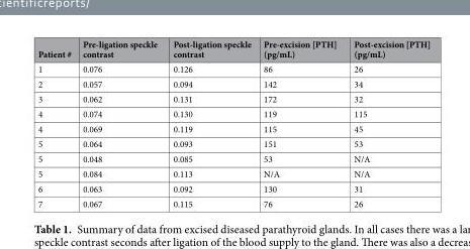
<table><thead><tr><td>Patient #</td><td>Pre-ligation speckle contrast</td><td>Post-ligation speckle contrast</td><td>Pre-excision [PTH] (pg/mL)</td><td>Post-excision [PTH] (pg/mL)</td></tr></thead><tbody><tr><td>1</td><td>0.076</td><td>0.126</td><td>86</td><td>26</td></tr><tr><td>2</td><td>0.057</td><td>0.094</td><td>142</td><td>34</td></tr><tr><td>3</td><td>0.062</td><td>0.131</td><td>172</td><td>32</td></tr><tr><td>4</td><td>0.074</td><td>0.130</td><td>119</td><td>115</td></tr><tr><td>4</td><td>0.069</td><td>0.119</td><td>115</td><td>45</td></tr><tr><td>5</td><td>0.064</td><td>0.093</td><td>151</td><td>53</td></tr><tr><td>5</td><td>0.048</td><td>0.085</td><td>53</td><td>N/A</td></tr><tr><td>5</td><td>0.084</td><td>0.113</td><td>N/A</td><td>N/A</td></tr><tr><td>6</td><td>0.063</td><td>0.092</td><td>130</td><td>31</td></tr><tr><td>7</td><td>0.067</td><td>0.115</td><td>76</td><td>26</td></tr></tbody></table>